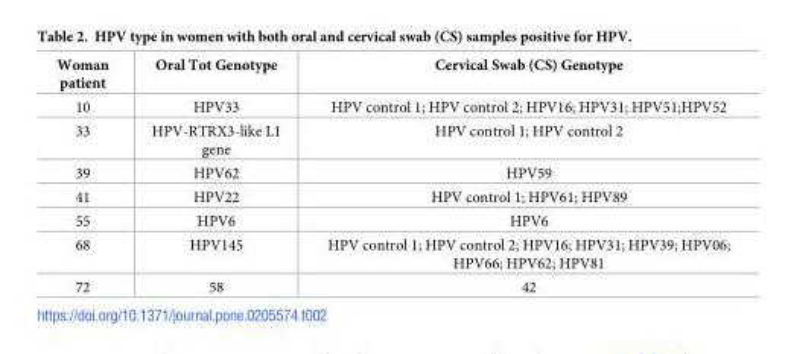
<table><thead><tr><td>Woman patient</td><td>Oral Tot Genotype</td><td>Cervical Swab (CS) Genotype</td></tr></thead><tbody><tr><td>10</td><td>HPV33</td><td>HPV control 1; HPV control 2; HPV16; HPV31; HPV51;HPV52</td></tr><tr><td>33</td><td>HPV-RTRX3-like L1 gene</td><td>HPV control 1; HPV control 2</td></tr><tr><td>39</td><td>HPV62</td><td>HPV59</td></tr><tr><td>41</td><td>HPV22</td><td>HPV control 1; HPV61; HPV89</td></tr><tr><td>55</td><td>HPV6</td><td>HPV6</td></tr><tr><td>68</td><td>HPV145</td><td>HPV control 1; HPV control 2; HPV16; HPV31; HPV39; HPV06; HPV66; HPV62; HPV81</td></tr><tr><td>72</td><td>58</td><td>42</td></tr></tbody></table>